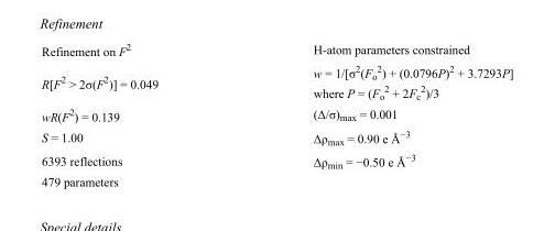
<table><tbody><tr><td>Refinement on F<sup>2</sup></td><td>H-atom parameters constrained</td></tr><tr><td>R[F<sup>2</sup> &gt; 2σ(F<sup>2</sup>)] = 0.049</td><td>w = 1/[σ<sup>2</sup>(F<sub>o</sub> <sup>2</sup>) + (0.0796P)<sup>2</sup> + 3.7293P] where P = (F<sub>o</sub> <sup>2</sup> + 2F<sub>c</sub> <sup>2</sup>)/3</td></tr><tr><td>wR(F<sup>2</sup>) = 0.139</td><td>(Δ/σ)<sub>max</sub> = 0.001</td></tr><tr><td>S = 1.00</td><td>Δρ<sub>max</sub> = 0.90 e Å<sup>−3</sup></td></tr><tr><td>6393 reflections</td><td>Δρ<sub>min</sub> = −0.50 e Å<sup>−3</sup></td></tr><tr><td>479 parameters</td><td></td></tr></tbody></table>